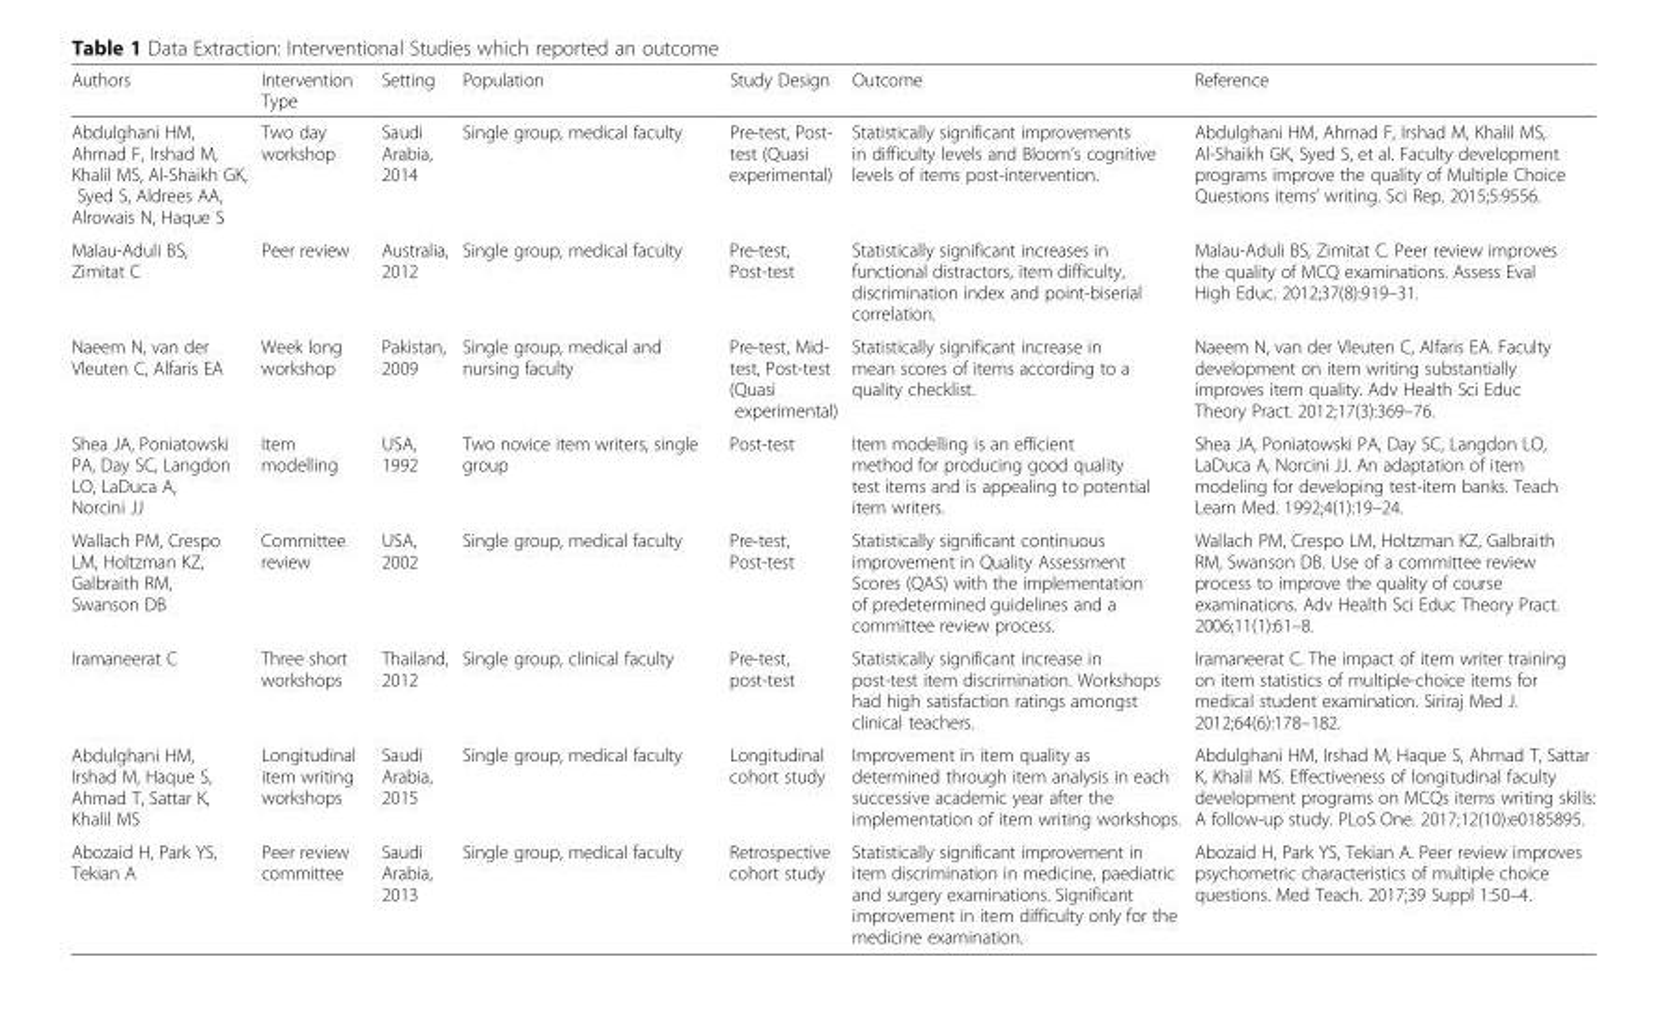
<table><thead><tr><td>Authors</td><td>Intervention Type</td><td>Setting</td><td>Population</td><td>Study Design</td><td>Outcome</td><td>Reference</td></tr></thead><tbody><tr><td>Abdulghani HM, Ahmad F, Irshad M, Khalil MS, Al-Shaikh GK, Syed S, Aldrees AA, Alrowais N, Haque S</td><td>Two day workshop</td><td>Saudi Arabia, 2014</td><td>Single group, medical faculty</td><td>Pre-test, Post- test (Quasi experimental)</td><td>Statistically significant improvements in difficulty levels and Bloom’s cognitive levels of items post-intervention.</td><td>Abdulghani HM, Ahmad F, Irshad M, Khalil MS, Al-Shaikh GK, Syed S, et al. Faculty development programs improve the quality of Multiple Choice Questions items’ writing. Sci Rep. 2015;5:9556.</td></tr><tr><td>Malau-Aduli BS, Zimitat C</td><td>Peer review</td><td>Australia, 2012</td><td>Single group, medical faculty</td><td>Pre-test, Post-test</td><td>Statistically significant increases in functional distractors, item difficulty, discrimination index and point-biserial correlation.</td><td>Malau-Aduli BS, Zimitat C. Peer review improves the quality of MCQ examinations. Assess Eval High Educ. 2012;37(8):919–31.</td></tr><tr><td>Naeem N, van der Vleuten C, Alfaris EA</td><td>Week long workshop</td><td>Pakistan, 2009</td><td>Single group, medical and nursing faculty</td><td>Pre-test, Mid- test, Post-test (Quasi experimental)</td><td>Statistically significant increase in mean scores of items according to a quality checklist.</td><td>Naeem N, van der Vleuten C, Alfaris EA. Faculty development on item writing substantially improves item quality. Adv Health Sci Educ Theory Pract. 2012;17(3):369–76.</td></tr><tr><td>Shea JA, Poniatowski PA, Day SC, Langdon LO, LaDuca A, Norcini JJ</td><td>Item modelling</td><td>USA, 1992</td><td>Two novice item writers, single group</td><td>Post-test</td><td>Item modelling is an efficient method for producing good quality test items and is appealing to potential item writers.</td><td>Shea JA, Poniatowski PA, Day SC, Langdon LO, LaDuca A, Norcini JJ. An adaptation of item modeling for developing test-item banks. Teach Learn Med. 1992;4(1):19–24.</td></tr><tr><td>Wallach PM, Crespo LM, Holtzman KZ, Galbraith RM, Swanson DB</td><td>Committee review</td><td>USA, 2002</td><td>Single group, medical faculty</td><td>Pre-test, Post-test</td><td>Statistically significant continuous improvement in Quality Assessment Scores (QAS) with the implementation of predetermined guidelines and a committee review process.</td><td>Wallach PM, Crespo LM, Holtzman KZ, Galbraith RM, Swanson DB. Use of a committee review process to improve the quality of course examinations. Adv Health Sci Educ Theory Pract. 2006;11(1):61–8.</td></tr><tr><td>Iramaneerat C</td><td>Three short workshops</td><td>Thailand, 2012</td><td>Single group, clinical faculty</td><td>Pre-test, post-test</td><td>Statistically significant increase in post-test item discrimination. Workshops had high satisfaction ratings amongst clinical teachers.</td><td>Iramaneerat C. The impact of item writer training on item statistics of multiple-choice items for medical student examination. Siriraj Med J. 2012;64(6):178–182.</td></tr><tr><td>Abdulghani HM, Irshad M, Haque S, Ahmad T, Sattar K, Khalil MS</td><td>Longitudinal item writing workshops</td><td>Saudi Arabia, 2015</td><td>Single group, medical faculty</td><td>Longitudinal cohort study</td><td>Improvement in item quality as determined through item analysis in each successive academic year after the implementation of item writing workshops.</td><td>Abdulghani HM, Irshad M, Haque S, Ahmad T, Sattar K, Khalil MS. Effectiveness of longitudinal faculty development programs on MCQs items writing skills: A follow-up study. PLoS One. 2017;12(10):e0185895.</td></tr><tr><td>Abozaid H, Park YS, Tekian A</td><td>Peer review committee</td><td>Saudi Arabia, 2013</td><td>Single group, medical faculty</td><td>Retrospective cohort study</td><td>Statistically significant improvement in item discrimination in medicine, paediatric and surgery examinations. Significant improvement in item difficulty only for the medicine examination.</td><td>Abozaid H, Park YS, Tekian A. Peer review improves psychometric characteristics of multiple choice questions. Med Teach. 2017;39 Suppl 1:50–4.</td></tr></tbody></table>